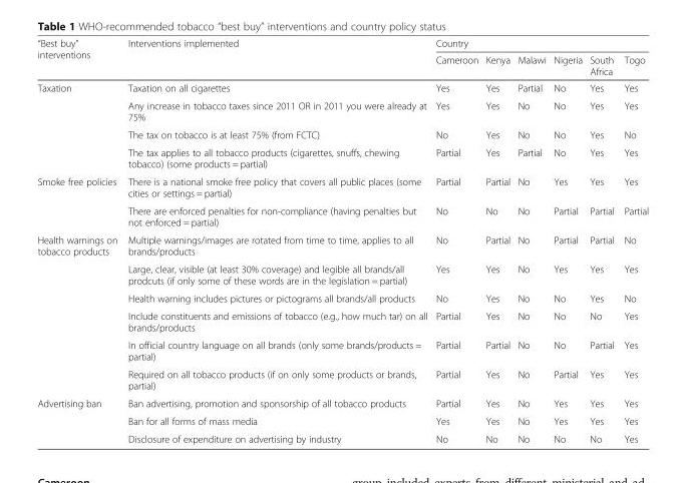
<table><thead><tr><td rowspan="2">“Best buy” interventions</td><td rowspan="2">Interventions implemented</td><td colspan="6">Country</td></tr><tr><td>Cameroon</td><td>Kenya</td><td>Malawi</td><td>Nigeria</td><td>South Africa</td><td>Togo</td></tr></thead><tbody><tr><td rowspan="4">Taxation</td><td>Taxation on all cigarettes</td><td>Yes</td><td>Yes</td><td>Partial</td><td>No</td><td>Yes</td><td>Yes</td></tr><tr><td>Any increase in tobacco taxes since 2011 OR in 2011 you were already at 75%</td><td>Yes</td><td>Yes</td><td>No</td><td>No</td><td>Yes</td><td>Yes</td></tr><tr><td>The tax on tobacco is at least 75% (from FCTC)</td><td>No</td><td>Yes</td><td>No</td><td>No</td><td>Yes</td><td>No</td></tr><tr><td>The tax applies to all tobacco products (cigarettes, snuffs, chewing tobacco) (some products = partial)</td><td>Partial</td><td>Yes</td><td>Partial</td><td>No</td><td>Yes</td><td>Yes</td></tr><tr><td rowspan="2">Smoke free policies</td><td>There is a national smoke free policy that covers all public places (some cities or settings = partial)</td><td>Partial</td><td>Partial</td><td>No</td><td>Yes</td><td>Yes</td><td>Yes</td></tr><tr><td>There are enforced penalties for non-compliance (having penalties but not enforced = partial)</td><td>No</td><td>No</td><td>No</td><td>Partial</td><td>Partial</td><td>Partial</td></tr><tr><td rowspan="6">Health warnings on tobacco products</td><td>Multiple warnings/images are rotated from time to time, applies to all brands/products</td><td>No</td><td>Partial</td><td>No</td><td>Partial</td><td>Partial</td><td>No</td></tr><tr><td>Large, clear, visible (at least 30% coverage) and legible all brands/all prodcuts (if only some of these words are in the legislation = partial)</td><td>Yes</td><td>Yes</td><td>No</td><td>Yes</td><td>Yes</td><td>Yes</td></tr><tr><td>Health warning includes pictures or pictograms all brands/all products</td><td>No</td><td>Yes</td><td>No</td><td>No</td><td>Yes</td><td>No</td></tr><tr><td>Include constituents and emissions of tobacco (e.g., how much tar) on all brands/products</td><td>Partial</td><td>Yes</td><td>No</td><td>No</td><td>No</td><td>Yes</td></tr><tr><td>In official country language on all brands (only some brands/products = partial)</td><td>Partial</td><td>Partial</td><td>No</td><td>No</td><td>Partial</td><td>Yes</td></tr><tr><td>Required on all tobacco products (if on only some products or brands, partial)</td><td>Partial</td><td>Yes</td><td>No</td><td>Partial</td><td>Yes</td><td>Yes</td></tr><tr><td rowspan="3">Advertising ban</td><td>Ban advertising, promotion and sponsorship of all tobacco products</td><td>Partial</td><td>Yes</td><td>No</td><td>Yes</td><td>Yes</td><td>Yes</td></tr><tr><td>Ban for all forms of mass media</td><td>Yes</td><td>Yes</td><td>No</td><td>Yes</td><td>Yes</td><td>Yes</td></tr><tr><td>Disclosure of expenditure on advertising by industry</td><td>No</td><td>No</td><td>No</td><td>No</td><td>No</td><td>Yes</td></tr></tbody></table>